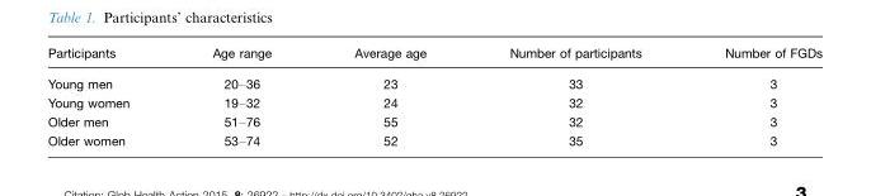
<table><thead><tr><td>Participants</td><td>Age range</td><td>Average age</td><td>Number of participants</td><td>Number of FGDs</td></tr></thead><tbody><tr><td>Young men</td><td>20–36</td><td>23</td><td>33</td><td>3</td></tr><tr><td>Young women</td><td>19–32</td><td>24</td><td>32</td><td>3</td></tr><tr><td>Older men</td><td>51–76</td><td>55</td><td>32</td><td>3</td></tr><tr><td>Older women</td><td>53–74</td><td>52</td><td>35</td><td>3</td></tr></tbody></table>